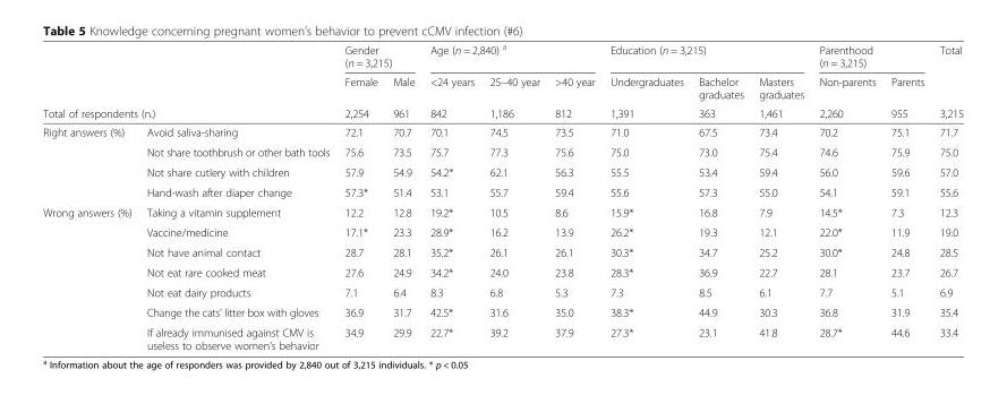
<table><thead><tr><td rowspan="2"></td><td rowspan="2"></td><td colspan="2">Gender (n = 3,215)</td><td colspan="3">Age (n = 2,840) <sup>a</sup></td><td colspan="3">Education (n = 3,215)</td><td colspan="2">Parenthood (n = 3,215)</td><td rowspan="3">Total 3,215</td></tr><tr><td rowspan="2">Female 2,254</td><td rowspan="2">Male 961</td><td rowspan="2">&lt;24 years 842</td><td rowspan="2">25–40 year 1,186</td><td rowspan="2">&gt;40 year 812</td><td rowspan="2">Undergraduates 1,391</td><td rowspan="2">Bachelor graduates 363</td><td rowspan="2">Masters graduates 1,461</td><td rowspan="2">Non-parents 2,260</td><td rowspan="2">Parents 955</td></tr><tr><td colspan="2">Total of respondents (n.)</td></tr></thead><tbody><tr><td rowspan="4">Right answers (%)</td><td>Avoid saliva-sharing</td><td>72.1</td><td>70.7</td><td>70.1</td><td>74.5</td><td>73.5</td><td>71.0</td><td>67.5</td><td>73.4</td><td>70.2</td><td>75.1</td><td>71.7</td></tr><tr><td>Not share toothbrush or other bath tools</td><td>75.6</td><td>73.5</td><td>75.7</td><td>77.3</td><td>75.6</td><td>75.0</td><td>73.0</td><td>75.4</td><td>74.6</td><td>75.9</td><td>75.0</td></tr><tr><td>Not share cutlery with children</td><td>57.9</td><td>54.9</td><td>54.2*</td><td>62.1</td><td>56.3</td><td>55.5</td><td>53.4</td><td>59.4</td><td>56.0</td><td>59.6</td><td>57.0</td></tr><tr><td>Hand-wash after diaper change</td><td>57.3*</td><td>51.4</td><td>53.1</td><td>55.7</td><td>59.4</td><td>55.6</td><td>57.3</td><td>55.0</td><td>54.1</td><td>59.1</td><td>55.6</td></tr><tr><td rowspan="7">Wrong answers (%)</td><td>Taking a vitamin supplement</td><td>12.2</td><td>12.8</td><td>19.2*</td><td>10.5</td><td>8.6</td><td>15.9*</td><td>16.8</td><td>7.9</td><td>14.5*</td><td>7.3</td><td>12.3</td></tr><tr><td>Vaccine/medicine</td><td>17.1*</td><td>23.3</td><td>28.9*</td><td>16.2</td><td>13.9</td><td>26.2*</td><td>19.3</td><td>12.1</td><td>22.0*</td><td>11.9</td><td>19.0</td></tr><tr><td>Not have animal contact</td><td>28.7</td><td>28.1</td><td>35.2*</td><td>26.1</td><td>26.1</td><td>30.3*</td><td>34.7</td><td>25.2</td><td>30.0*</td><td>24.8</td><td>28.5</td></tr><tr><td>Not eat rare cooked meat</td><td>27.6</td><td>24.9</td><td>34.2*</td><td>24.0</td><td>23.8</td><td>28.3*</td><td>36.9</td><td>22.7</td><td>28.1</td><td>23.7</td><td>26.7</td></tr><tr><td>Not eat dairy products</td><td>7.1</td><td>6.4</td><td>8.3</td><td>6.8</td><td>5.3</td><td>7.3</td><td>8.5</td><td>6.1</td><td>7.7</td><td>5.1</td><td>6.9</td></tr><tr><td>Change the cats’ litter box with gloves</td><td>36.9</td><td>31.7</td><td>42.5*</td><td>31.6</td><td>35.0</td><td>38.3*</td><td>44.9</td><td>30.3</td><td>36.8</td><td>31.9</td><td>35.4</td></tr><tr><td>If already immunised against CMV is useless to observe women’s behavior</td><td>34.9</td><td>29.9</td><td>22.7*</td><td>39.2</td><td>37.9</td><td>27.3*</td><td>23.1</td><td>41.8</td><td>28.7*</td><td>44.6</td><td>33.4</td></tr></tbody></table>